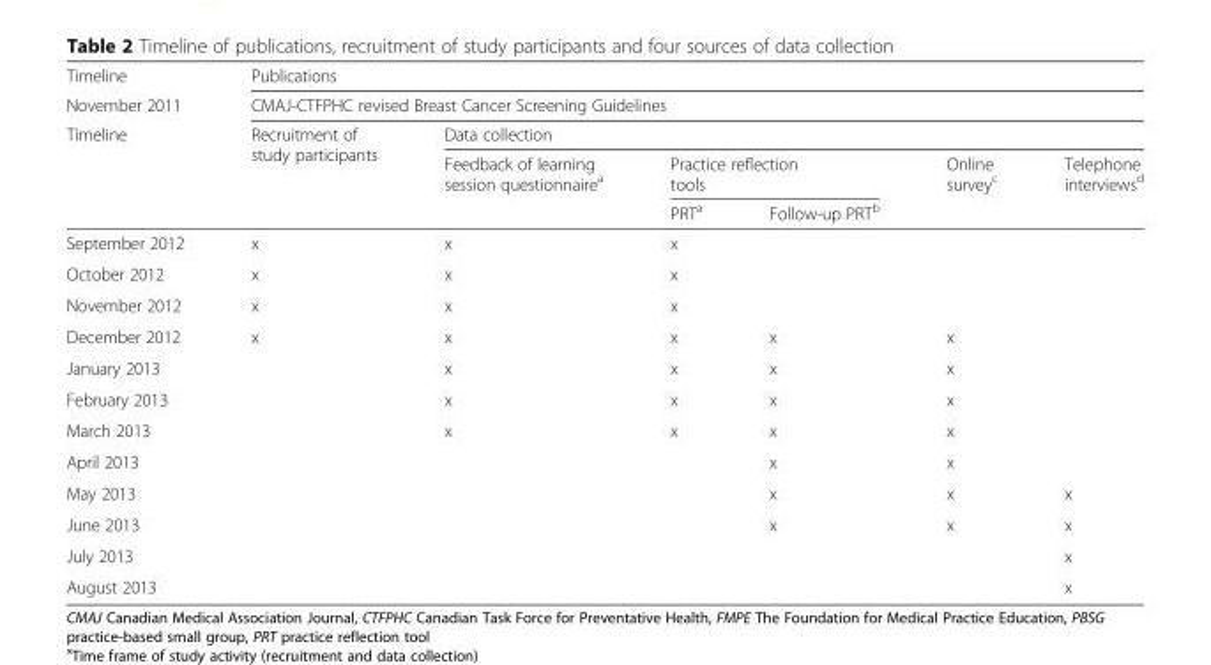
<table><thead><tr><td rowspan="5">Timeline November 2011 Timeline</td><td rowspan="2" colspan="6">Publications CMAJ-CTFPHC revised Breast Cancer Screening Guidelines</td></tr><tr></tr><tr><td rowspan="3">Recruitment of study participants</td><td colspan="5">Data collection</td></tr><tr><td rowspan="2">Feedback of learning session questionnaire<sup>a</sup></td><td colspan="2">Practice reflection tools</td><td rowspan="2">Online survey<sup>c</sup></td><td rowspan="2">Telephone interviews<sup>d</sup></td></tr><tr><td>PRT<sup>a</sup></td><td>Follow-up PRT<sup>b</sup></td></tr></thead><tbody><tr><td>September 2012</td><td>x</td><td>x</td><td>x</td><td></td><td></td><td></td></tr><tr><td>October 2012</td><td>x</td><td>x</td><td>x</td><td></td><td></td><td></td></tr><tr><td>November 2012</td><td>x</td><td>x</td><td>x</td><td></td><td></td><td></td></tr><tr><td>December 2012</td><td>x</td><td>x</td><td>x</td><td>x</td><td>x</td><td></td></tr><tr><td>January 2013</td><td></td><td>x</td><td>x</td><td>x</td><td>x</td><td></td></tr><tr><td>February 2013</td><td></td><td>x</td><td>x</td><td>x</td><td>x</td><td></td></tr><tr><td>March 2013</td><td></td><td>x</td><td>x</td><td>x</td><td>x</td><td></td></tr><tr><td>April 2013</td><td></td><td></td><td></td><td>x</td><td>x</td><td></td></tr><tr><td>May 2013</td><td></td><td></td><td></td><td>x</td><td>x</td><td>x</td></tr><tr><td>June 2013</td><td></td><td></td><td></td><td>x</td><td>x</td><td>x</td></tr><tr><td>July 2013</td><td></td><td></td><td></td><td></td><td></td><td>x</td></tr><tr><td>August 2013</td><td></td><td></td><td></td><td></td><td></td><td>x</td></tr></tbody></table>